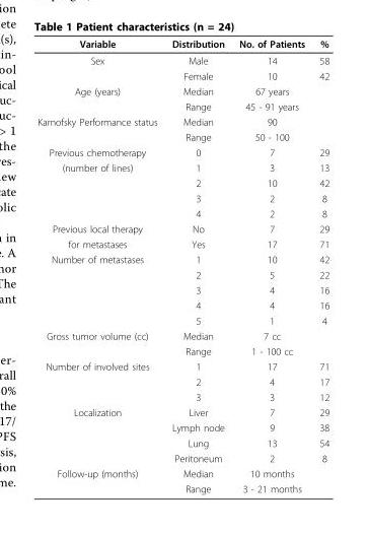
<table><thead><tr><td>Variable</td><td>Distribution</td><td>No. of Patients</td><td>%</td></tr></thead><tbody><tr><td rowspan="2">Sex</td><td>Male</td><td>14</td><td>58</td></tr><tr><td>Female</td><td>10</td><td>42</td></tr><tr><td rowspan="2">Age (years)</td><td>Median</td><td>67 years</td><td></td></tr><tr><td>Range</td><td>45 - 91 years</td><td></td></tr><tr><td rowspan="2">Karnofsky Performance status</td><td>Median</td><td>90</td><td></td></tr><tr><td>Range</td><td>50 - 100</td><td></td></tr><tr><td>Previous chemotherapy</td><td>0</td><td>7</td><td>29</td></tr><tr><td rowspan="4">(number of lines)</td><td>1</td><td>3</td><td>13</td></tr><tr><td>2</td><td>10</td><td>42</td></tr><tr><td>3</td><td>2</td><td>8</td></tr><tr><td>4</td><td>2</td><td>8</td></tr><tr><td>Previous local therapy</td><td>No</td><td>7</td><td>29</td></tr><tr><td>for metastases</td><td>Yes</td><td>17</td><td>71</td></tr><tr><td rowspan="5">Number of metastases</td><td>1</td><td>10</td><td>42</td></tr><tr><td>2</td><td>5</td><td>22</td></tr><tr><td>3</td><td>4</td><td>16</td></tr><tr><td>4</td><td>4</td><td>16</td></tr><tr><td>5</td><td>1</td><td>4</td></tr><tr><td rowspan="2">Gross tumor volume (cc)</td><td>Median</td><td>7 cc</td><td></td></tr><tr><td>Range</td><td>1 - 100 cc</td><td></td></tr><tr><td rowspan="3">Number of involved sites</td><td>1</td><td>17</td><td>71</td></tr><tr><td>2</td><td>4</td><td>17</td></tr><tr><td>3</td><td>3</td><td>12</td></tr><tr><td rowspan="4">Localization</td><td>Liver</td><td>7</td><td>29</td></tr><tr><td>Lymph node</td><td>9</td><td>38</td></tr><tr><td>Lung</td><td>13</td><td>54</td></tr><tr><td>Peritoneum</td><td>2</td><td>8</td></tr><tr><td rowspan="2">Follow-up (months)</td><td>Median</td><td>10 months</td><td></td></tr><tr><td>Range</td><td>3 - 21 months</td><td></td></tr></tbody></table>